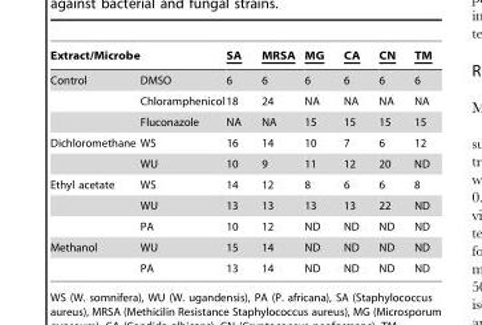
<table><thead><tr><td colspan="2">Extract/Microbe</td><td rowspan="2">SA 6</td><td rowspan="2">MRSA 6</td><td rowspan="2">MG 6</td><td rowspan="2">CA 6</td><td rowspan="2">CN 6</td><td rowspan="2">TM 6</td></tr><tr><td>Control</td><td>DMSO</td></tr></thead><tbody><tr><td></td><td>Chloramphenicol</td><td>18</td><td>24</td><td>NA</td><td>NA</td><td>NA</td><td>NA</td></tr><tr><td></td><td>Fluconazole</td><td>NA</td><td>NA</td><td>15</td><td>15</td><td>15</td><td>15</td></tr><tr><td rowspan="2">Dichloromethane</td><td>WS</td><td>16</td><td>14</td><td>10</td><td>7</td><td>6</td><td>12</td></tr><tr><td>WU</td><td>10</td><td>9</td><td>11</td><td>12</td><td>20</td><td>ND</td></tr><tr><td rowspan="3">Ethyl acetate</td><td>WS</td><td>14</td><td>12</td><td>8</td><td>6</td><td>6</td><td>8</td></tr><tr><td>WU</td><td>13</td><td>13</td><td>13</td><td>13</td><td>22</td><td>ND</td></tr><tr><td>PA</td><td>10</td><td>12</td><td>ND</td><td>ND</td><td>ND</td><td>ND</td></tr><tr><td rowspan="2">Methanol</td><td>WU</td><td>15</td><td>14</td><td>ND</td><td>ND</td><td>ND</td><td>ND</td></tr><tr><td>PA</td><td>13</td><td>14</td><td>ND</td><td>ND</td><td>ND</td><td>ND</td></tr></tbody></table>